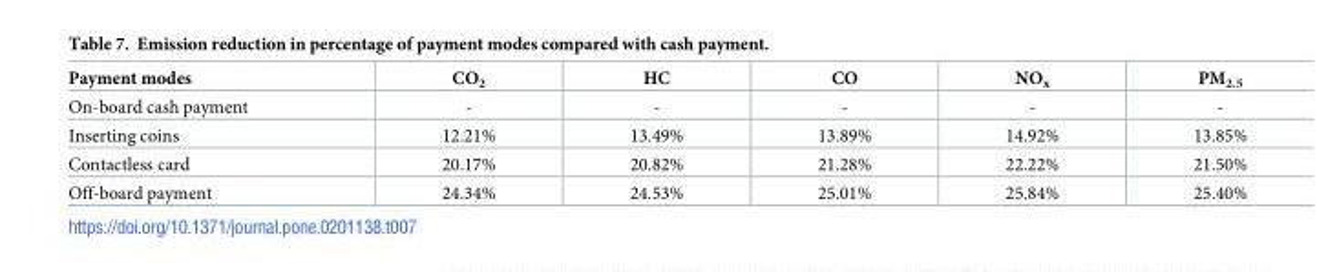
<table><thead><tr><td>Payment modes</td><td>CO<sub>2</sub></td><td>HC</td><td>CO</td><td>NO<sub>x</sub></td><td>PM<sub>2.5</sub></td></tr></thead><tbody><tr><td>On-board cash payment</td><td>-</td><td>-</td><td>-</td><td>-</td><td>-</td></tr><tr><td>Inserting coins</td><td>12.21%</td><td>13.49%</td><td>13.89%</td><td>14.92%</td><td>13.85%</td></tr><tr><td>Contactless card</td><td>20.17%</td><td>20.82%</td><td>21.28%</td><td>22.22%</td><td>21.50%</td></tr><tr><td>Off-board payment</td><td>24.34%</td><td>24.53%</td><td>25.01%</td><td>25.84%</td><td>25.40%</td></tr></tbody></table>